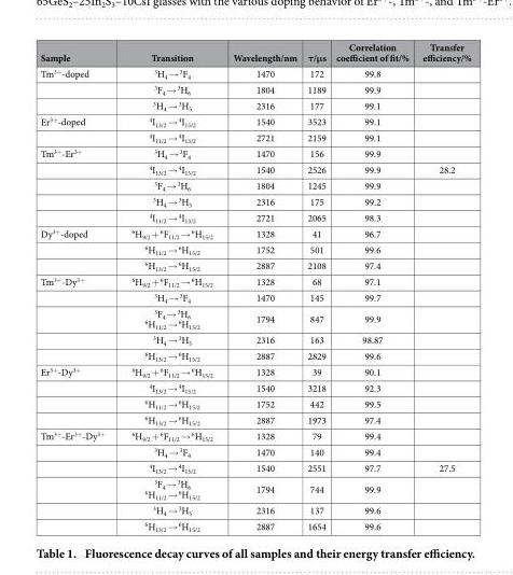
<table><thead><tr><td>Sample</td><td>Transition</td><td>Wavelength/nm</td><td>τ/μs</td><td>Correlation coefficient of fit/%</td><td>Transfer efficiency/%</td></tr></thead><tbody><tr><td rowspan="3">Tm<sup>3+</sup>-doped</td><td><sup>3</sup>H<sub>4</sub> → <sup>3</sup>F<sub>4</sub></td><td>1470</td><td>172</td><td>99.8</td><td></td></tr><tr><td><sup>3</sup>F<sub>4</sub> → <sup>3</sup>H<sub>6</sub></td><td>1804</td><td>1189</td><td>99.9</td><td></td></tr><tr><td><sup>3</sup>H<sub>4</sub> → <sup>3</sup>H<sub>5</sub></td><td>2316</td><td>177</td><td>99.1</td><td></td></tr><tr><td rowspan="2">Er<sup>3+</sup>-doped</td><td><sup>4</sup>I<sub>13/2</sub> → <sup>4</sup>I<sub>15/2</sub></td><td>1540</td><td>3523</td><td>99.1</td><td></td></tr><tr><td><sup>4</sup>I<sub>11/2</sub> → <sup>4</sup>I<sub>13/2</sub></td><td>2721</td><td>2159</td><td>99.1</td><td></td></tr><tr><td rowspan="5">Tm<sup>3+</sup>-Er<sup>3+</sup></td><td><sup>3</sup>H<sub>4</sub> → <sup>3</sup>F<sub>4</sub></td><td>1470</td><td>156</td><td>99.9</td><td></td></tr><tr><td><sup>4</sup>I<sub>13/2</sub> → <sup>4</sup>I<sub>15/2</sub></td><td>1540</td><td>2526</td><td>99.9</td><td>28.2</td></tr><tr><td><sup>3</sup>F<sub>4</sub> → <sup>3</sup>H<sub>6</sub></td><td>1804</td><td>1245</td><td>99.9</td><td></td></tr><tr><td><sup>3</sup>H<sub>4</sub> → <sup>3</sup>H<sub>5</sub></td><td>2316</td><td>175</td><td>99.2</td><td></td></tr><tr><td><sup>4</sup>I<sub>11/2</sub> → <sup>4</sup>I<sub>13/2</sub></td><td>2721</td><td>2065</td><td>98.3</td><td></td></tr><tr><td rowspan="3">Dy<sup>3+</sup>-doped</td><td><sup>6</sup>H<sub>9/2</sub> + <sup>6</sup>F<sub>11/2</sub> → <sup>6</sup>H<sub>15/2</sub></td><td>1328</td><td>41</td><td>96.7</td><td></td></tr><tr><td><sup>6</sup>H<sub>11/2</sub> → <sup>6</sup>H<sub>15/2</sub></td><td>1752</td><td>501</td><td>99.6</td><td></td></tr><tr><td><sup>6</sup>H<sub>13/2</sub> → <sup>6</sup>H<sub>15/2</sub></td><td>2887</td><td>2108</td><td>97.4</td><td></td></tr><tr><td rowspan="5">Tm<sup>3+</sup>-Dy<sup>3+</sup></td><td><sup>6</sup>H<sub>9/2</sub> + <sup>6</sup>F<sub>11/2</sub> → <sup>6</sup>H<sub>15/2</sub></td><td>1328</td><td>68</td><td>97.1</td><td></td></tr><tr><td><sup>3</sup>H<sub>4</sub> → <sup>3</sup>F<sub>4</sub></td><td>1470</td><td>145</td><td>99.7</td><td></td></tr><tr><td><sup>3</sup>F<sub>4</sub> → <sup>3</sup>H<sub>6</sub> <sup>6</sup>H<sub>11/2</sub> → <sup>6</sup>H<sub>15/2</sub></td><td>1794</td><td>847</td><td>99.9</td><td></td></tr><tr><td><sup>3</sup>H<sub>4</sub> → <sup>3</sup>H<sub>5</sub></td><td>2316</td><td>163</td><td>98.87</td><td></td></tr><tr><td><sup>6</sup>H<sub>13/2</sub> → <sup>6</sup>H<sub>15/2</sub></td><td>2887</td><td>2829</td><td>99.6</td><td></td></tr><tr><td rowspan="4">Er<sup>3+</sup>-Dy<sup>3+</sup></td><td><sup>6</sup>H<sub>9/2</sub> + <sup>6</sup>F<sub>11/2</sub> → <sup>6</sup>H<sub>15/2</sub></td><td>1328</td><td>39</td><td>90.1</td><td></td></tr><tr><td><sup>4</sup>I<sub>13/2</sub> → <sup>4</sup>I<sub>15/2</sub></td><td>1540</td><td>3218</td><td>92.3</td><td></td></tr><tr><td><sup>6</sup>H<sub>11/2</sub> → <sup>6</sup>H<sub>15/2</sub></td><td>1752</td><td>442</td><td>99.5</td><td></td></tr><tr><td><sup>6</sup>H<sub>13/2</sub> → <sup>6</sup>H<sub>15/2</sub></td><td>2887</td><td>1973</td><td>97.4</td><td></td></tr><tr><td rowspan="6">Tm<sup>3+</sup>-Er<sup>3+</sup>-Dy<sup>3+</sup></td><td><sup>6</sup>H<sub>9/2</sub> + <sup>6</sup>F<sub>11/2</sub> → <sup>6</sup>H<sub>15/2</sub></td><td>1328</td><td>79</td><td>99.4</td><td></td></tr><tr><td><sup>3</sup>H<sub>4</sub> → <sup>3</sup>F<sub>4</sub></td><td>1470</td><td>140</td><td>99.4</td><td></td></tr><tr><td><sup>4</sup>I<sub>13/2</sub> → <sup>4</sup>I<sub>15/2</sub></td><td>1540</td><td>2551</td><td>97.7</td><td>27.5</td></tr><tr><td><sup>3</sup>F<sub>4</sub> → <sup>3</sup>H<sub>6</sub> <sup>6</sup>H<sub>11/2</sub> → <sup>6</sup>H<sub>15/2</sub></td><td>1794</td><td>744</td><td>99.9</td><td></td></tr><tr><td><sup>3</sup>H<sub>4</sub> → <sup>3</sup>H<sub>5</sub></td><td>2316</td><td>137</td><td>99.6</td><td></td></tr><tr><td><sup>6</sup>H<sub>13/2</sub> → <sup>6</sup>H<sub>15/2</sub></td><td>2887</td><td>1654</td><td>99.6</td><td></td></tr></tbody></table>